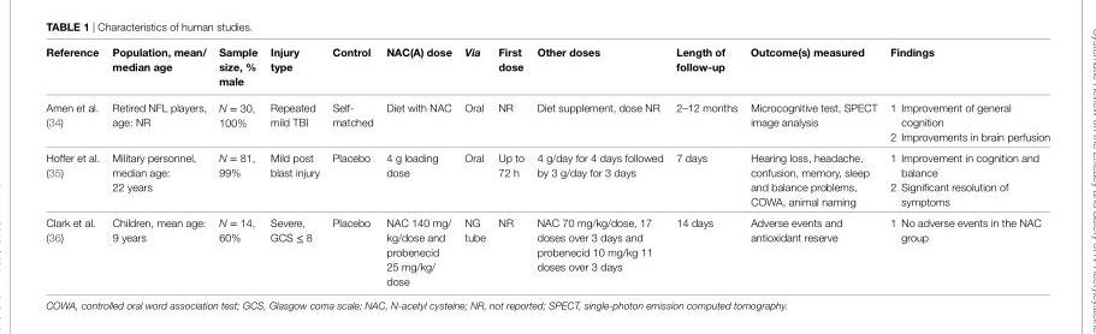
<table><thead><tr><td>Reference</td><td>Population, mean/ median age</td><td>Sample size, % male</td><td>injury type</td><td>control</td><td>Nac(a) dose</td><td>Via</td><td>First dose</td><td>Other doses</td><td>length of follow-up</td><td>Outcome(s) measured</td><td>Findings</td></tr></thead><tbody><tr><td>Amen et al. (34)</td><td>Retired NFL players, age: NR</td><td>N = 30, 100%</td><td>Repeated mild TBI</td><td>Self- matched</td><td>Diet with NAC</td><td>Oral</td><td>NR</td><td>Diet supplement, dose NR</td><td>2–12 months</td><td>Microcognitive test, SPECT image analysis</td><td>1 Improvement of general cognition 2 Improvements in brain perfusion</td></tr><tr><td>Hoffer et al. (35)</td><td>Military personnel, median age: 22 years</td><td>N = 81, 99%</td><td>Mild post blast injury</td><td>Placebo</td><td>4 g loading dose</td><td>Oral</td><td>Up to 72 h</td><td>4 g/day for 4 days followed by 3 g/day for 3 days</td><td>7 days</td><td>Hearing loss, headache, confusion, memory, sleep and balance problems, COWA, animal naming</td><td>1 Improvement in cognition and balance 2 Significant resolution of symptoms</td></tr><tr><td>Clark et al. (36)</td><td>Children, mean age: 9 years</td><td>N = 14, 60%</td><td>Severe, GCS ≤ 8</td><td>Placebo</td><td>NAC 140 mg/ kg/dose and probenecid 25 mg/kg/ dose</td><td>NG tube</td><td>NR</td><td>NAC 70 mg/kg/dose, 17 doses over 3 days and probenecid 10 mg/kg 11 doses over 3 days</td><td>14 days</td><td>Adverse events and antioxidant reserve</td><td>1 No adverse events in the NAC group</td></tr></tbody></table>